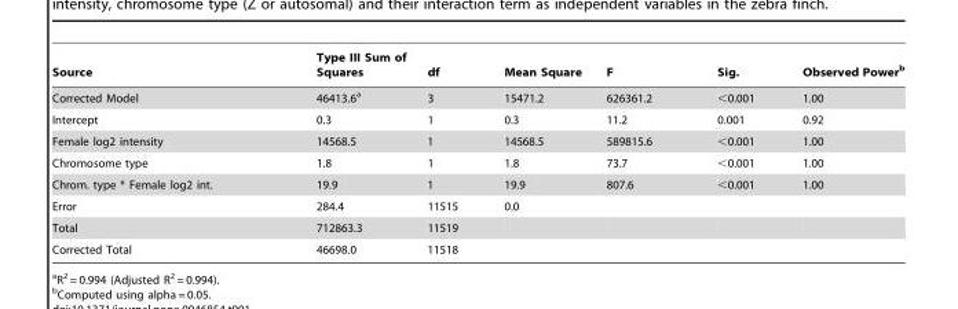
<table><thead><tr><td>Source</td><td>Type III Sum of Squares</td><td>df</td><td>Mean Square</td><td>F</td><td>Sig.</td><td>Observed Power<sup>b</sup></td></tr></thead><tbody><tr><td>Corrected Model</td><td>46413.6<sup>a</sup></td><td>3</td><td>15471.2</td><td>626361.2</td><td>&lt;0.001</td><td>1.00</td></tr><tr><td>Intercept</td><td>0.3</td><td>1</td><td>0.3</td><td>11.2</td><td>0.001</td><td>0.92</td></tr><tr><td>Female log2 intensity</td><td>14568.5</td><td>1</td><td>14568.5</td><td>589815.6</td><td>&lt;0.001</td><td>1.00</td></tr><tr><td>Chromosome type</td><td>1.8</td><td>1</td><td>1.8</td><td>73.7</td><td>&lt;0.001</td><td>1.00</td></tr><tr><td>Chrom. type * Female log2 int.</td><td>19.9</td><td>1</td><td>19.9</td><td>807.6</td><td>&lt;0.001</td><td>1.00</td></tr><tr><td>Error</td><td>284.4</td><td>11515</td><td>0.0</td><td></td><td></td><td></td></tr><tr><td>Total</td><td>712863.3</td><td>11519</td><td></td><td></td><td></td><td></td></tr><tr><td>Corrected Total</td><td>46698.0</td><td>11518</td><td></td><td></td><td></td><td></td></tr></tbody></table>